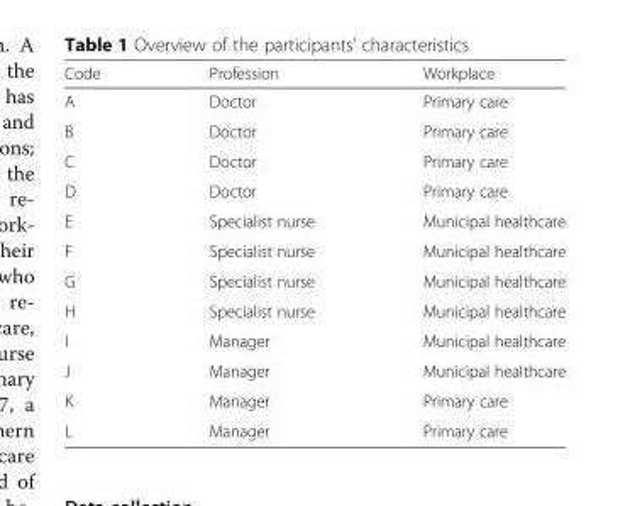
<table><thead><tr><td>Code</td><td>Profession</td><td>Workplace</td></tr></thead><tbody><tr><td>A</td><td>Doctor</td><td>Primary care</td></tr><tr><td>B</td><td>Doctor</td><td>Primary care</td></tr><tr><td>C</td><td>Doctor</td><td>Primary care</td></tr><tr><td>D</td><td>Doctor</td><td>Primary care</td></tr><tr><td>E</td><td>Specialist nurse</td><td>Municipal healthcare</td></tr><tr><td>F</td><td>Specialist nurse</td><td>Municipal healthcare</td></tr><tr><td>G</td><td>Specialist nurse</td><td>Municipal healthcare</td></tr><tr><td>H</td><td>Specialist nurse</td><td>Municipal healthcare</td></tr><tr><td>I</td><td>Manager</td><td>Municipal healthcare</td></tr><tr><td>J</td><td>Manager</td><td>Municipal healthcare</td></tr><tr><td>K</td><td>Manager</td><td>Primary care</td></tr><tr><td>L</td><td>Manager</td><td>Primary care</td></tr></tbody></table>